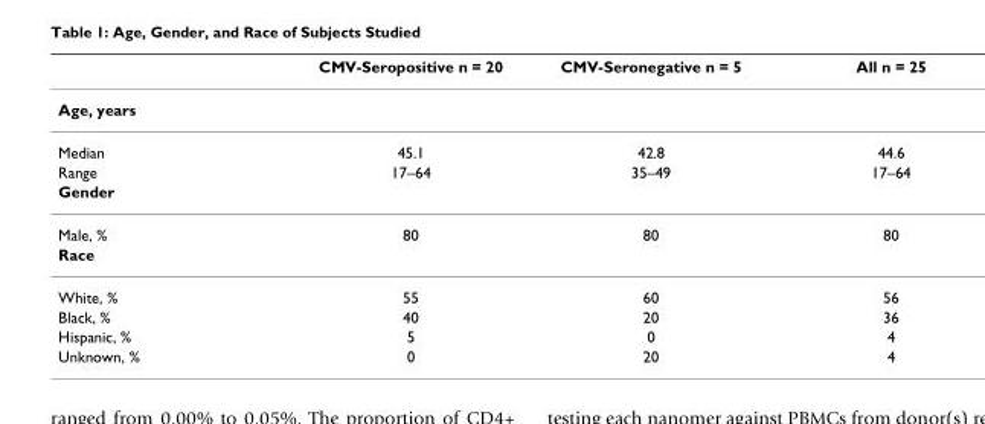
<table><thead><tr><td></td><td>CMV-Seropositive n = 20</td><td>CMV-Seronegative n = 5</td><td>All n = 25</td></tr></thead><tbody><tr><td colspan="4">Age, years</td></tr><tr><td>Median</td><td>45.1</td><td>42.8</td><td>44.6</td></tr><tr><td>Range</td><td>17–64</td><td>35–49</td><td>17–64</td></tr><tr><td colspan="4">Gender</td></tr><tr><td>Male, %</td><td>80</td><td>80</td><td>80</td></tr><tr><td colspan="4">Race</td></tr><tr><td>White, %</td><td>55</td><td>60</td><td>56</td></tr><tr><td>Black, %</td><td>40</td><td>20</td><td>36</td></tr><tr><td>Hispanic, %</td><td>5</td><td>0</td><td>4</td></tr><tr><td>Unknown, %</td><td>0</td><td>20</td><td>4</td></tr></tbody></table>